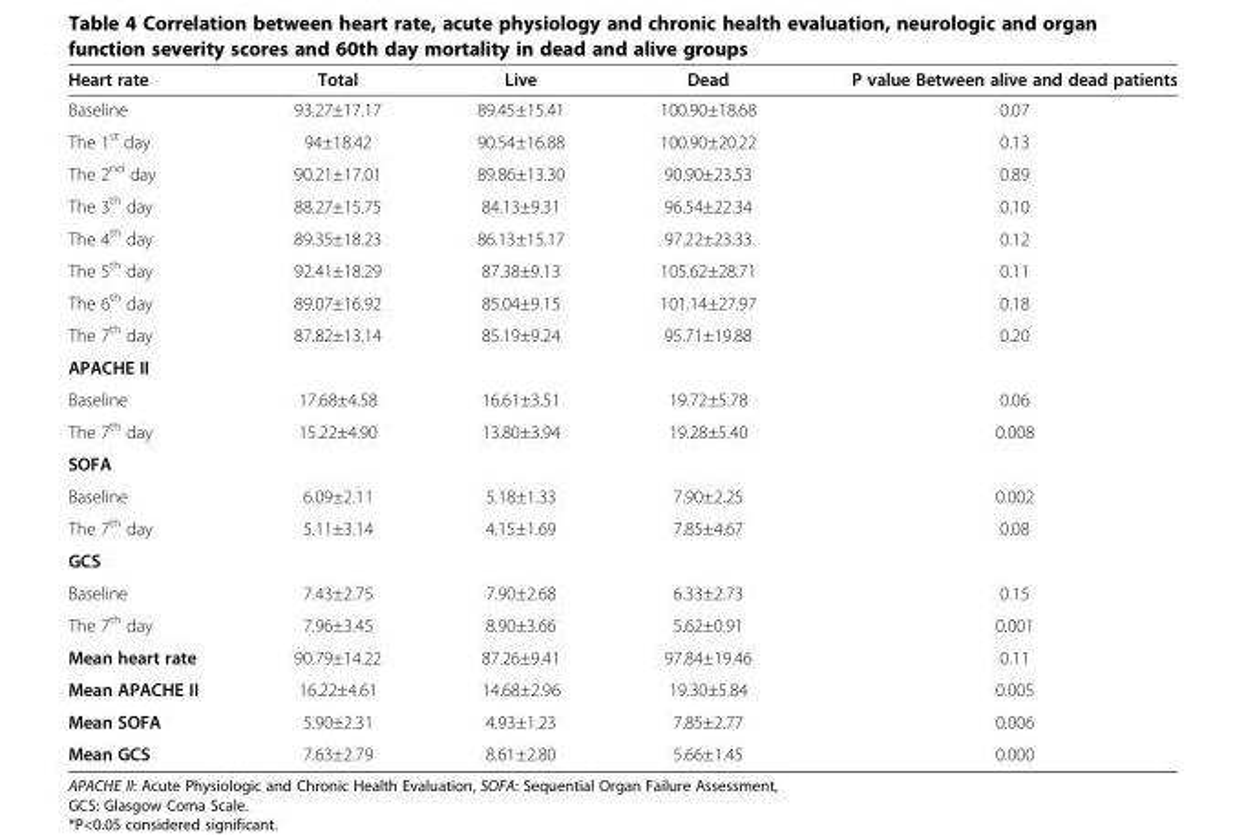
<table><thead><tr><td>Heart rate</td><td>Total</td><td>Live</td><td>Dead</td><td>P value Between alive and dead patients</td></tr></thead><tbody><tr><td>Baseline</td><td>93.27±17.17</td><td>89.45±15.41</td><td>100.90±18.68</td><td>0.07</td></tr><tr><td>The 1<sup>st</sup> day</td><td>94±18.42</td><td>90.54±16.88</td><td>100.90±20.22</td><td>0.13</td></tr><tr><td>The 2<sup>nd</sup> day</td><td>90.21±17.01</td><td>89.86±13.30</td><td>90.90±23.53</td><td>0.89</td></tr><tr><td>The 3<sup>th</sup> day</td><td>88.27±15.75</td><td>84.13±9.31</td><td>96.54±22.34</td><td>0.10</td></tr><tr><td>The 4<sup>th</sup> day</td><td>89.35±18.23</td><td>86.13±15.17</td><td>97.22±23.33</td><td>0.12</td></tr><tr><td>The 5<sup>th</sup> day</td><td>92.41±18.29</td><td>87.38±9.13</td><td>105.62±28.71</td><td>0.11</td></tr><tr><td>The 6<sup>th</sup> day</td><td>89.07±16.92</td><td>85.04±9.15</td><td>101.14±27.97</td><td>0.18</td></tr><tr><td>The 7<sup>th</sup> day</td><td>87.82±13.14</td><td>85.19±9.24</td><td>95.71±19.88</td><td>0.20</td></tr><tr><td colspan="5">APACHE II</td></tr><tr><td>Baseline</td><td>17.68±4.58</td><td>16.61±3.51</td><td>19.72±5.78</td><td>0.06</td></tr><tr><td>The 7<sup>th</sup> day</td><td>15.22±4.90</td><td>13.80±3.94</td><td>19.28±5.40</td><td>0.008</td></tr><tr><td colspan="5">SOFA</td></tr><tr><td>Baseline</td><td>6.09±2.11</td><td>5.18±1.33</td><td>7.90±2.25</td><td>0.002</td></tr><tr><td>The 7<sup>th</sup> day</td><td>5.11±3.14</td><td>4.15±1.69</td><td>7.85±4.67</td><td>0.08</td></tr><tr><td colspan="5">GCS</td></tr><tr><td>Baseline</td><td>7.43±2.75</td><td>7.90±2.68</td><td>6.33±2.73</td><td>0.15</td></tr><tr><td>The 7<sup>th</sup> day</td><td>7.96±3.45</td><td>8.90±3.66</td><td>5.62±0.91</td><td>0.001</td></tr><tr><td>Mean heart rate</td><td>90.79±14.22</td><td>87.26±9.41</td><td>97.84±19.46</td><td>0.11</td></tr><tr><td>Mean APACHE II</td><td>16.22±4.61</td><td>14.68±2.96</td><td>19.30±5.84</td><td>0.005</td></tr><tr><td>Mean SOFA</td><td>5.90±2.31</td><td>4.93±1.23</td><td>7.85±2.77</td><td>0.006</td></tr><tr><td>Mean GCS</td><td>7.63±2.79</td><td>8.61±2.80</td><td>5.66±1.45</td><td>0.000</td></tr></tbody></table>